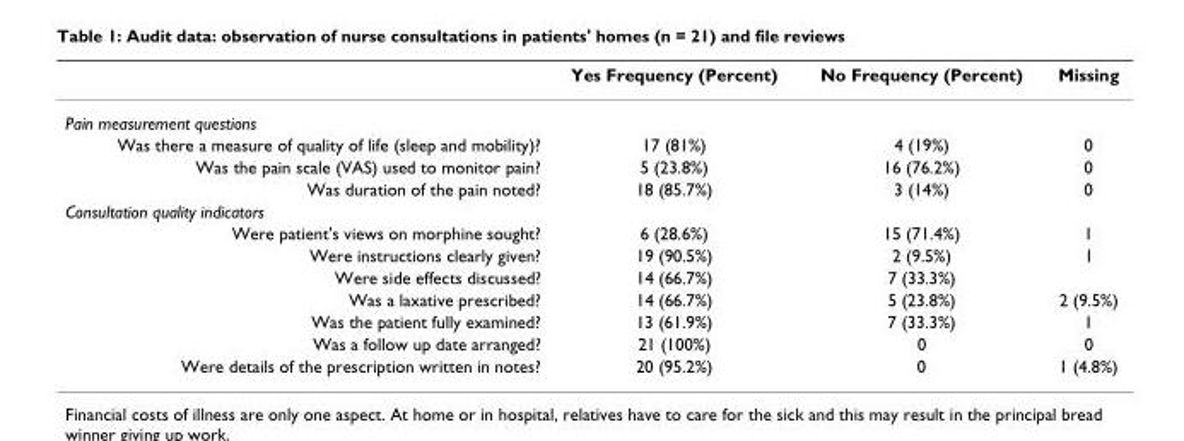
<table><thead><tr><td></td><td>Yes Frequency (Percent)</td><td>No Frequency (Percent)</td><td>Missing</td></tr></thead><tbody><tr><td colspan="4">Pain measurement questions</td></tr><tr><td>Was there a measure of quality of life (sleep and mobility)?</td><td>17 (81%)</td><td>4 (19%)</td><td>0</td></tr><tr><td>Was the pain scale (VAS) used to monitor pain?</td><td>5 (23.8%)</td><td>16 (76.2%)</td><td>0</td></tr><tr><td>Was duration of the pain noted?</td><td>18 (85.7%)</td><td>3 (14%)</td><td>0</td></tr><tr><td colspan="4">Consultation quality indicators</td></tr><tr><td>Were patient&#x27;s views on morphine sought?</td><td>6 (28.6%)</td><td>15 (71.4%)</td><td>1</td></tr><tr><td>Were instructions clearly given?</td><td>19 (90.5%)</td><td>2 (9.5%)</td><td>1</td></tr><tr><td>Were side effects discussed?</td><td>14 (66.7%)</td><td>7 (33.3%)</td><td></td></tr><tr><td>Was a laxative prescribed?</td><td>14 (66.7%)</td><td>5 (23.8%)</td><td>2 (9.5%)</td></tr><tr><td>Was the patient fully examined?</td><td>13 (61.9%)</td><td>7 (33.3%)</td><td>1</td></tr><tr><td>Was a follow up date arranged?</td><td>21 (100%)</td><td>0</td><td>0</td></tr><tr><td>Were details of the prescription written in notes?</td><td>20 (95.2%)</td><td>0</td><td>1 (4.8%)</td></tr></tbody></table>